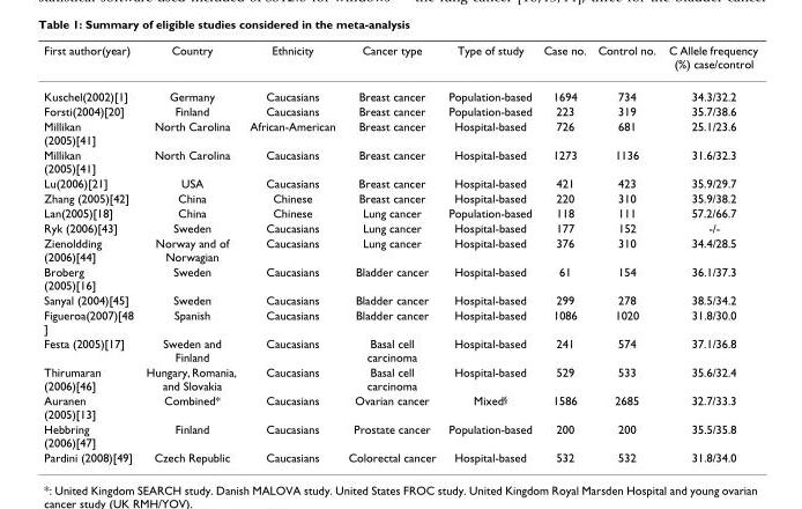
<table><thead><tr><td>First author(year)</td><td>Country</td><td>Ethnicity</td><td>Cancer type</td><td>Type of study</td><td>Case no.</td><td>Control no.</td><td>C Allele frequency (%) case/control</td></tr></thead><tbody><tr><td>Kuschel(2002)[1]</td><td>Germany</td><td>Caucasians</td><td>Breast cancer</td><td>Population-based</td><td>1694</td><td>734</td><td>34.3/32.2</td></tr><tr><td>Forsti(2004)[20]</td><td>Finland</td><td>Caucasians</td><td>Breast cancer</td><td>Population-based</td><td>223</td><td>319</td><td>35.7/38.6</td></tr><tr><td>Millikan (2005)[41]</td><td>North Carolina</td><td>African-American</td><td>Breast cancer</td><td>Hospital-based</td><td>726</td><td>681</td><td>25.1/23.6</td></tr><tr><td>Millikan (2005)[41]</td><td>North Carolina</td><td>Caucasians</td><td>Breast cancer</td><td>Hospital-based</td><td>1273</td><td>1136</td><td>31.6/32.3</td></tr><tr><td>Lu(2006)[21]</td><td>USA</td><td>Caucasians</td><td>Breast cancer</td><td>Hospital-based</td><td>421</td><td>423</td><td>35.9/29.7</td></tr><tr><td>Zhang (2005)[42]</td><td>China</td><td>Chinese</td><td>Breast cancer</td><td>Hospital-based</td><td>220</td><td>310</td><td>35.9/38.2</td></tr><tr><td>Lan(2005)[18]</td><td>China</td><td>Chinese</td><td>Lung cancer</td><td>Population-based</td><td>118</td><td>111</td><td>57.2/66.7</td></tr><tr><td>Ryk (2006)[43]</td><td>Sweden</td><td>Caucasians</td><td>Lung cancer</td><td>Hospital-based</td><td>177</td><td>152</td><td>-/-</td></tr><tr><td>Zienoldding (2006)[44]</td><td>Norway and of Norwagian</td><td>Caucasians</td><td>Lung cancer</td><td>Hospital-based</td><td>376</td><td>310</td><td>34.4/28.5</td></tr><tr><td>Broberg (2005)[16]</td><td>Sweden</td><td>Caucasians</td><td>Bladder cancer</td><td>Hospital-based</td><td>61</td><td>154</td><td>36.1/37.3</td></tr><tr><td>Sanyal (2004)[45]</td><td>Sweden</td><td>Caucasians</td><td>Bladder cancer</td><td>Hospital-based</td><td>299</td><td>278</td><td>38.5/34.2</td></tr><tr><td>Figueroa(2007)[48 ]</td><td>Spanish</td><td>Caucasians</td><td>Bladder cancer</td><td>Hospital-based</td><td>1086</td><td>1020</td><td>31.8/30.0</td></tr><tr><td>Festa (2005)[17]</td><td>Sweden and Finland</td><td>Caucasians</td><td>Basal cell carcinoma</td><td>Hospital-based</td><td>241</td><td>574</td><td>37.1/36.8</td></tr><tr><td>Thirumaran (2006)[46]</td><td>Hungary, Romania, and Slovakia</td><td>Caucasians</td><td>Basal cell carcinoma</td><td>Hospital-based</td><td>529</td><td>533</td><td>35.6/32.4</td></tr><tr><td>Auranen (2005)[13]</td><td>Combined*</td><td>Caucasians</td><td>Ovarian cancer</td><td>Mixed<sup>§</sup></td><td>1586</td><td>2685</td><td>32.7/33.3</td></tr><tr><td>Hebbring (2006)[47]</td><td>Finland</td><td>Caucasians</td><td>Prostate cancer</td><td>Population-based</td><td>200</td><td>200</td><td>35.5/35.8</td></tr><tr><td>Pardini (2008)[49]</td><td>Czech Republic</td><td>Caucasians</td><td>Colorectal cancer</td><td>Hospital-based</td><td>532</td><td>532</td><td>31.8/34.0</td></tr></tbody></table>